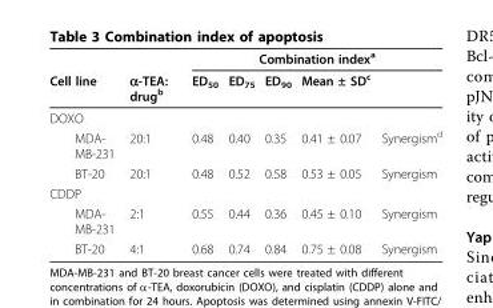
<table><thead><tr><td rowspan="2">Cell line</td><td rowspan="2">α-TEA: drug<sup>b</sup></td><td colspan="5">Combination index<sup>a</sup></td></tr><tr><td>ED<sub>50</sub></td><td>ED<sub>75</sub></td><td>ED<sub>90</sub></td><td>Mean ± SD<sup>c</sup></td><td></td></tr></thead><tbody><tr><td colspan="7">DOXO</td></tr><tr><td>MDA- MB-231</td><td>20:1</td><td>0.48</td><td>0.40</td><td>0.35</td><td>0.41 ± 0.07</td><td>Synergism<sup>d</sup></td></tr><tr><td>BT-20</td><td>20:1</td><td>0.48</td><td>0.52</td><td>0.58</td><td>0.53 ± 0.05</td><td>Synergism</td></tr><tr><td colspan="7">CDDP</td></tr><tr><td>MDA- MB-231</td><td>2:1</td><td>0.55</td><td>0.44</td><td>0.36</td><td>0.45 ± 0.10</td><td>Synergism</td></tr><tr><td>BT-20</td><td>4:1</td><td>0.68</td><td>0.74</td><td>0.84</td><td>0.75 ± 0.08</td><td>Synergism</td></tr></tbody></table>